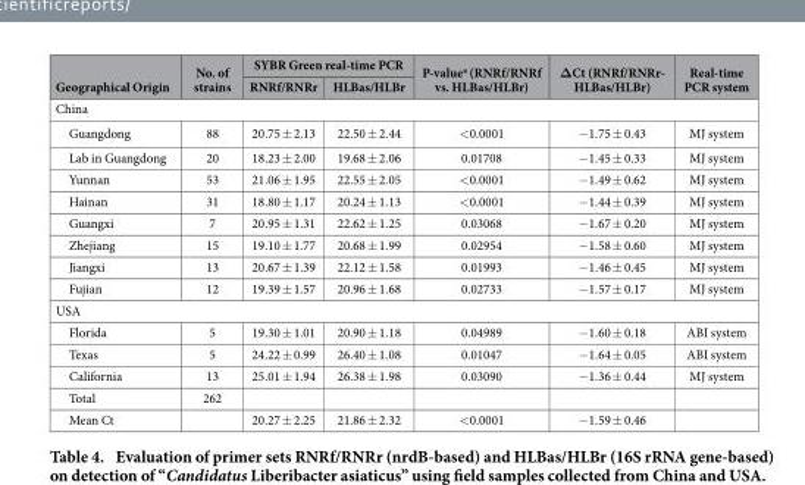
<table><thead><tr><td rowspan="2">Geographical Origin</td><td rowspan="2">No. of strains</td><td colspan="2">SYBR Green real-time PCR</td><td rowspan="2">P-value<sup>a</sup> (RNRf/RNRf vs. HLBas/HLBr)</td><td rowspan="2">ΔCt (RNRf/RNRr- HLBas/HLBr)</td><td rowspan="2">Real-time PCR system</td></tr><tr><td>RNRf/RNRr</td><td>HLBas/HLBr</td></tr></thead><tbody><tr><td colspan="7">China</td></tr><tr><td>Guangdong</td><td>88</td><td>20.75 ± 2.13</td><td>22.50 ± 2.44</td><td>&lt; 0.0001</td><td>− 1.75 ± 0.43</td><td>MJ system</td></tr><tr><td>Lab in Guangdong</td><td>20</td><td>18.23 ± 2.00</td><td>19.68 ± 2.06</td><td>0.01708</td><td>− 1.45 ± 0.33</td><td>MJ system</td></tr><tr><td>Yunnan</td><td>53</td><td>21.06 ± 1.95</td><td>22.55 ± 2.05</td><td>&lt; 0.0001</td><td>− 1.49 ± 0.62</td><td>MJ system</td></tr><tr><td>Hainan</td><td>31</td><td>18.80 ± 1.17</td><td>20.24 ± 1.13</td><td>&lt; 0.0001</td><td>− 1.44 ± 0.39</td><td>MJ system</td></tr><tr><td>Guangxi</td><td>7</td><td>20.95 ± 1.31</td><td>22.62 ± 1.25</td><td>0.03068</td><td>− 1.67 ± 0.20</td><td>MJ system</td></tr><tr><td>Zhejiang</td><td>15</td><td>19.10 ± 1.77</td><td>20.68 ± 1.99</td><td>0.02954</td><td>− 1.58 ± 0.60</td><td>MJ system</td></tr><tr><td>Jiangxi</td><td>13</td><td>20.67 ± 1.39</td><td>22.12 ± 1.58</td><td>0.01993</td><td>− 1.46 ± 0.45</td><td>MJ system</td></tr><tr><td>Fujian</td><td>12</td><td>19.39 ± 1.57</td><td>20.96 ± 1.68</td><td>0.02733</td><td>− 1.57 ± 0.17</td><td>MJ system</td></tr><tr><td colspan="7">USA</td></tr><tr><td>Florida</td><td>5</td><td>19.30 ± 1.01</td><td>20.90 ± 1.18</td><td>0.04989</td><td>− 1.60 ± 0.18</td><td>ABI system</td></tr><tr><td>Texas</td><td>5</td><td>24.22 ± 0.99</td><td>26.40 ± 1.08</td><td>0.01047</td><td>− 1.64 ± 0.05</td><td>ABI system</td></tr><tr><td>California</td><td>13</td><td>25.01 ± 1.94</td><td>26.38 ± 1.98</td><td>0.03090</td><td>− 1.36 ± 0.44</td><td>MJ system</td></tr><tr><td>Total</td><td>262</td><td></td><td></td><td></td><td></td><td></td></tr><tr><td>Mean Ct</td><td></td><td>20.27 ± 2.25</td><td>21.86 ± 2.32</td><td>&lt; 0.0001</td><td>− 1.59 ± 0.46</td><td></td></tr></tbody></table>